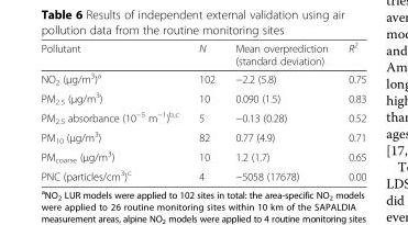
<table><thead><tr><td>Pollutant</td><td>N</td><td>Mean overprediction (standard deviation)</td><td>R<sup>2</sup></td></tr></thead><tbody><tr><td>NO<sub>2</sub> (μg/m<sup>3</sup>)<sup>a</sup></td><td>102</td><td>−2.2 (5.8)</td><td>0.75</td></tr><tr><td>PM<sub>2.5</sub> (μg/m<sup>3</sup>)</td><td>10</td><td>0.090 (1.5)</td><td>0.83</td></tr><tr><td>PM<sub>2.5</sub> absorbance (10<sup>−5</sup> m<sup>−1</sup>)<sup>b,c</sup></td><td>5</td><td>−0.13 (0.28)</td><td>0.52</td></tr><tr><td>PM<sub>10</sub> (μg/m<sup>3</sup>)</td><td>82</td><td>0.77 (4.9)</td><td>0.71</td></tr><tr><td>PM<sub>coarse</sub> (μg/m<sup>3</sup>)</td><td>10</td><td>1.2 (1.7)</td><td>0.65</td></tr><tr><td>PNC (particles/cm<sup>3</sup>)<sup>c</sup></td><td>4</td><td>−5058 (17678)</td><td>0.00</td></tr></tbody></table>